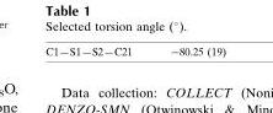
<table><tbody><tr><td>C1—S1—S2—C21</td><td>−80.25 (19)</td></tr></tbody></table>